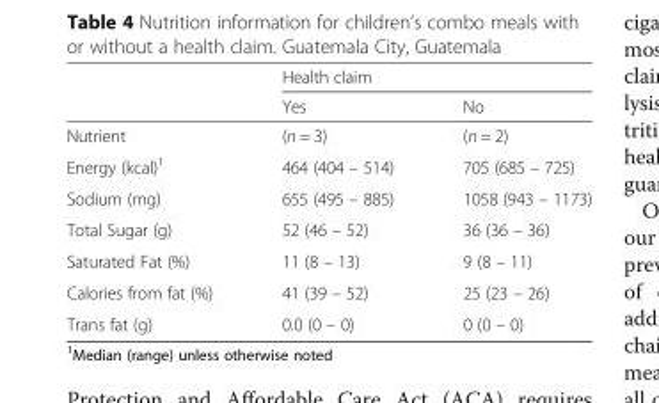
<table><thead><tr><td rowspan="2"></td><td colspan="2">Health claim</td></tr><tr><td>Yes</td><td>No</td></tr></thead><tbody><tr><td>Nutrient</td><td>(n = 3)</td><td>(n = 2)</td></tr><tr><td>Energy (kcal)<sup>1</sup></td><td>464 (404 – 514)</td><td>705 (685 – 725)</td></tr><tr><td>Sodium (mg)</td><td>655 (495 – 885)</td><td>1058 (943 – 1173)</td></tr><tr><td>Total Sugar (g)</td><td>52 (46 – 52)</td><td>36 (36 – 36)</td></tr><tr><td>Saturated Fat (%)</td><td>11 (8 – 13)</td><td>9 (8 – 11)</td></tr><tr><td>Calories from fat (%)</td><td>41 (39 – 52)</td><td>25 (23 – 26)</td></tr><tr><td>Trans fat (g)</td><td>0.0 (0 – 0)</td><td>0 (0 – 0)</td></tr></tbody></table>